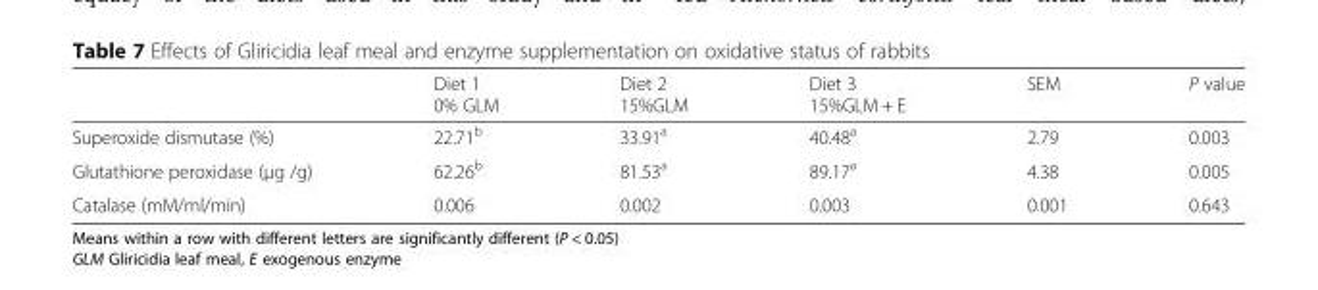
<table><thead><tr><td></td><td>Diet 1 0% GLM</td><td>Diet 2 15%GLM</td><td>Diet 3 15%GLM + E</td><td>SEM</td><td>P value</td></tr></thead><tbody><tr><td>Superoxide dismutase (%)</td><td>22.71<sup>b</sup></td><td>33.91<sup>a</sup></td><td>40.48<sup>a</sup></td><td>2.79</td><td>0.003</td></tr><tr><td>Glutathione peroxidase (μg /g)</td><td>62.26<sup>b</sup></td><td>81.53<sup>a</sup></td><td>89.17<sup>a</sup></td><td>4.38</td><td>0.005</td></tr><tr><td>Catalase (mM/ml/min)</td><td>0.006</td><td>0.002</td><td>0.003</td><td>0.001</td><td>0.643</td></tr></tbody></table>